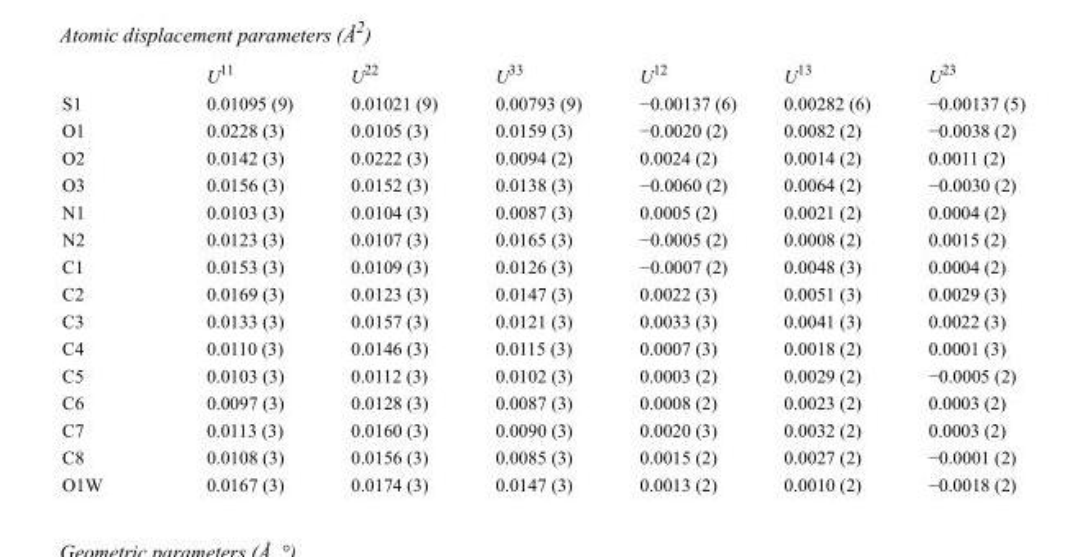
<table><thead><tr><td></td><td>U<sup>11</sup></td><td>U<sup>22</sup></td><td>U<sup>33</sup></td><td>U<sup>12</sup></td><td>U<sup>13</sup></td><td>U<sup>23</sup></td></tr></thead><tbody><tr><td>S1</td><td>0.01095 (9)</td><td>0.01021 (9)</td><td>0.00793 (9)</td><td>−0.00137 (6)</td><td>0.00282 (6)</td><td>−0.00137 (5)</td></tr><tr><td>O1</td><td>0.0228 (3)</td><td>0.0105 (3)</td><td>0.0159 (3)</td><td>−0.0020 (2)</td><td>0.0082 (2)</td><td>−0.0038 (2)</td></tr><tr><td>O2</td><td>0.0142 (3)</td><td>0.0222 (3)</td><td>0.0094 (2)</td><td>0.0024 (2)</td><td>0.0014 (2)</td><td>0.0011 (2)</td></tr><tr><td>O3</td><td>0.0156 (3)</td><td>0.0152 (3)</td><td>0.0138 (3)</td><td>−0.0060 (2)</td><td>0.0064 (2)</td><td>−0.0030 (2)</td></tr><tr><td>N1</td><td>0.0103 (3)</td><td>0.0104 (3)</td><td>0.0087 (3)</td><td>0.0005 (2)</td><td>0.0021 (2)</td><td>0.0004 (2)</td></tr><tr><td>N2</td><td>0.0123 (3)</td><td>0.0107 (3)</td><td>0.0165 (3)</td><td>−0.0005 (2)</td><td>0.0008 (2)</td><td>0.0015 (2)</td></tr><tr><td>C1</td><td>0.0153 (3)</td><td>0.0109 (3)</td><td>0.0126 (3)</td><td>−0.0007 (2)</td><td>0.0048 (3)</td><td>0.0004 (2)</td></tr><tr><td>C2</td><td>0.0169 (3)</td><td>0.0123 (3)</td><td>0.0147 (3)</td><td>0.0022 (3)</td><td>0.0051 (3)</td><td>0.0029 (3)</td></tr><tr><td>C3</td><td>0.0133 (3)</td><td>0.0157 (3)</td><td>0.0121 (3)</td><td>0.0033 (3)</td><td>0.0041 (3)</td><td>0.0022 (3)</td></tr><tr><td>C4</td><td>0.0110 (3)</td><td>0.0146 (3)</td><td>0.0115 (3)</td><td>0.0007 (3)</td><td>0.0018 (2)</td><td>0.0001 (3)</td></tr><tr><td>C5</td><td>0.0103 (3)</td><td>0.0112 (3)</td><td>0.0102 (3)</td><td>0.0003 (2)</td><td>0.0029 (2)</td><td>−0.0005 (2)</td></tr><tr><td>C6</td><td>0.0097 (3)</td><td>0.0128 (3)</td><td>0.0087 (3)</td><td>0.0008 (2)</td><td>0.0023 (2)</td><td>0.0003 (2)</td></tr><tr><td>C7</td><td>0.0113 (3)</td><td>0.0160 (3)</td><td>0.0090 (3)</td><td>0.0020 (3)</td><td>0.0032 (2)</td><td>0.0003 (2)</td></tr><tr><td>C8</td><td>0.0108 (3)</td><td>0.0156 (3)</td><td>0.0085 (3)</td><td>0.0015 (2)</td><td>0.0027 (2)</td><td>−0.0001 (2)</td></tr><tr><td>O1W</td><td>0.0167 (3)</td><td>0.0174 (3)</td><td>0.0147 (3)</td><td>0.0013 (2)</td><td>0.0010 (2)</td><td>−0.0018 (2)</td></tr></tbody></table>